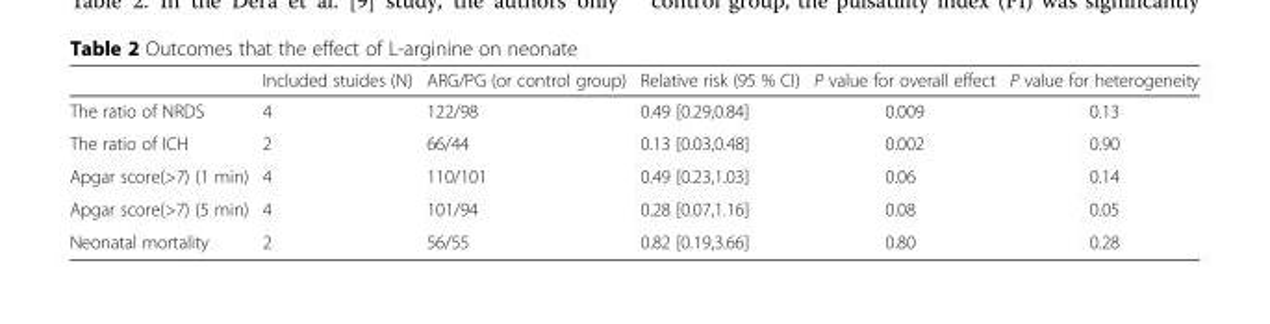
<table><thead><tr><td></td><td>Included stuides (N)</td><td>ARG/PG (or control group)</td><td>Relative risk (95 % CI)</td><td>P value for overall effect</td><td>P value for heterogeneity</td></tr></thead><tbody><tr><td>The ratio of NRDS</td><td>4</td><td>122/98</td><td>0.49 [0.29,0.84]</td><td>0.009</td><td>0.13</td></tr><tr><td>The ratio of ICH</td><td>2</td><td>66/44</td><td>0.13 [0.03,0.48]</td><td>0.002</td><td>0.90</td></tr><tr><td>Apgar score(&gt;7) (1 min)</td><td>4</td><td>110/101</td><td>0.49 [0.23,1.03]</td><td>0.06</td><td>0.14</td></tr><tr><td>Apgar score(&gt;7) (5 min)</td><td>4</td><td>101/94</td><td>0.28 [0.07,1.16]</td><td>0.08</td><td>0.05</td></tr><tr><td>Neonatal mortality</td><td>2</td><td>56/55</td><td>0.82 [0.19,3.66]</td><td>0.80</td><td>0.28</td></tr></tbody></table>